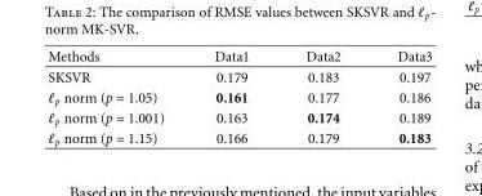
<table><thead><tr><td>Methods</td><td>Data1</td><td>Data2</td><td>Data3</td></tr></thead><tbody><tr><td>SKSVR</td><td>0.179</td><td>0.183</td><td>0.197</td></tr><tr><td>ℓ<sub>p</sub> norm (p = 1.05)</td><td>0.161</td><td>0.177</td><td>0.186</td></tr><tr><td>ℓ<sub>p</sub> norm (p = 1.001)</td><td>0.163</td><td>0.174</td><td>0.189</td></tr><tr><td>ℓ<sub>p</sub> norm (p = 1.15)</td><td>0.166</td><td>0.179</td><td>0.183</td></tr></tbody></table>